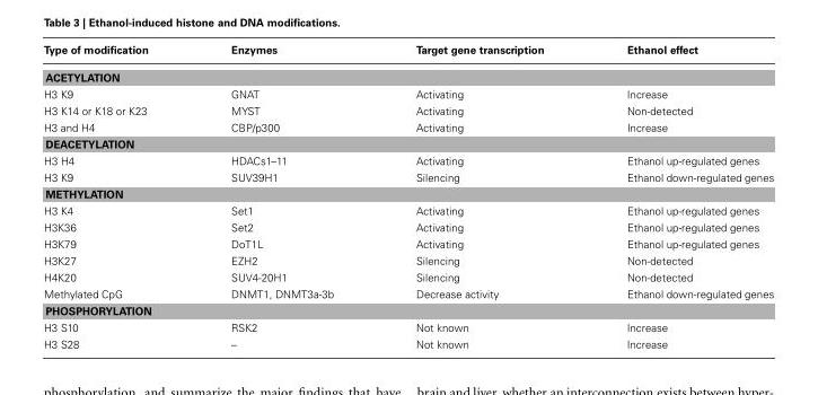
<table><thead><tr><td>Type of modification</td><td>Enzymes</td><td>Target gene transcription</td><td>Ethanol effect</td></tr></thead><tbody><tr><td colspan="4">ACETYLATION</td></tr><tr><td>H3 K9</td><td>GNAT</td><td>Activating</td><td>Increase</td></tr><tr><td>H3 K14 or K18 or K23</td><td>MYST</td><td>Activating</td><td>Non-detected</td></tr><tr><td>H3 and H4</td><td>CBP/p300</td><td>Activating</td><td>Increase</td></tr><tr><td colspan="4">DEACETYLATION</td></tr><tr><td>H3 H4</td><td>HDACs1–11</td><td>Activating</td><td>Ethanol up-regulated genes</td></tr><tr><td>H3 K9</td><td>SUV39H1</td><td>Silencing</td><td>Ethanol down-regulated genes</td></tr><tr><td colspan="4">METHYLATION</td></tr><tr><td>H3 K4</td><td>Set1</td><td>Activating</td><td>Ethanol up-regulated genes</td></tr><tr><td>H3K36</td><td>Set2</td><td>Activating</td><td>Ethanol up-regulated genes</td></tr><tr><td>H3K79</td><td>DoT1L</td><td>Activating</td><td>Ethanol up-regulated genes</td></tr><tr><td>H3K27</td><td>EZH2</td><td>Silencing</td><td>Non-detected</td></tr><tr><td>H4K20</td><td>SUV4-20H1</td><td>Silencing</td><td>Non-detected</td></tr><tr><td>Methylated CpG</td><td>DNMT1, DNMT3a-3b</td><td>Decrease activity</td><td>Ethanol down-regulated genes</td></tr><tr><td colspan="4">PHOSPHORYLATION</td></tr><tr><td>H3 S10</td><td>RSK2</td><td>Not known</td><td>Increase</td></tr><tr><td>H3 S28</td><td>–</td><td>Not known</td><td>Increase</td></tr></tbody></table>